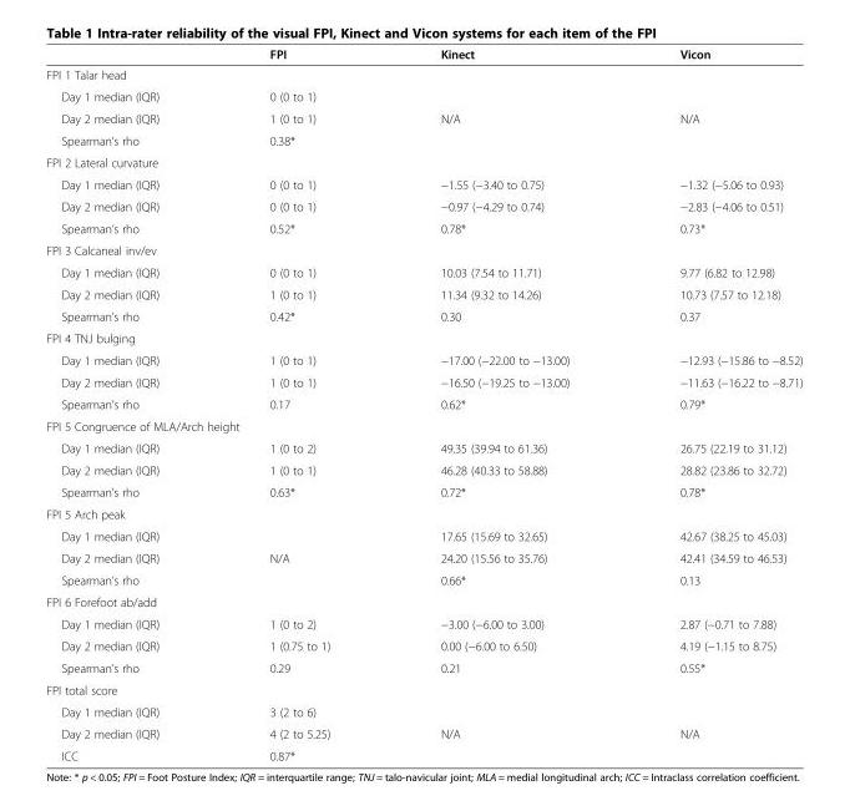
<table><thead><tr><td></td><td>FPI</td><td>Kinect</td><td>Vicon</td></tr></thead><tbody><tr><td colspan="4">FPI 1 Talar head</td></tr><tr><td>Day 1 median (IQR)</td><td>0 (0 to 1)</td><td></td><td></td></tr><tr><td>Day 2 median (IQR)</td><td>1 (0 to 1)</td><td>N/A</td><td>N/A</td></tr><tr><td>Spearman’s rho</td><td>0.38*</td><td></td><td></td></tr><tr><td colspan="4">FPI 2 Lateral curvature</td></tr><tr><td>Day 1 median (IQR)</td><td>0 (0 to 1)</td><td>−1.55 (−3.40 to 0.75)</td><td>−1.32 (−5.06 to 0.93)</td></tr><tr><td>Day 2 median (IQR)</td><td>0 (0 to 1)</td><td>−0.97 (−4.29 to 0.74)</td><td>−2.83 (−4.06 to 0.51)</td></tr><tr><td>Spearman’s rho</td><td>0.52*</td><td>0.78*</td><td>0.73*</td></tr><tr><td colspan="4">FPI 3 Calcaneal inv/ev</td></tr><tr><td>Day 1 median (IQR)</td><td>0 (0 to 1)</td><td>10.03 (7.54 to 11.71)</td><td>9.77 (6.82 to 12.98)</td></tr><tr><td>Day 2 median (IQR)</td><td>1 (0 to 1)</td><td>11.34 (9.32 to 14.26)</td><td>10.73 (7.57 to 12.18)</td></tr><tr><td>Spearman’s rho</td><td>0.42*</td><td>0.30</td><td>0.37</td></tr><tr><td colspan="4">FPI 4 TNJ bulging</td></tr><tr><td>Day 1 median (IQR)</td><td>1 (0 to 1)</td><td>−17.00 (−22.00 to −13.00)</td><td>−12.93 (−15.86 to −8.52)</td></tr><tr><td>Day 2 median (IQR)</td><td>1 (0 to 1)</td><td>−16.50 (−19.25 to −13.00)</td><td>−11.63 (−16.22 to −8.71)</td></tr><tr><td>Spearman’s rho</td><td>0.17</td><td>0.62*</td><td>0.79*</td></tr><tr><td colspan="4">FPI 5 Congruence of MLA/Arch height</td></tr><tr><td>Day 1 median (IQR)</td><td>1 (0 to 2)</td><td>49.35 (39.94 to 61.36)</td><td>26.75 (22.19 to 31.12)</td></tr><tr><td>Day 2 median (IQR)</td><td>1 (0 to 1)</td><td>46.28 (40.33 to 58.88)</td><td>28.82 (23.86 to 32.72)</td></tr><tr><td>Spearman’s rho</td><td>0.63*</td><td>0.72*</td><td>0.78*</td></tr><tr><td colspan="4">FPI 5 Arch peak</td></tr><tr><td>Day 1 median (IQR)</td><td></td><td>17.65 (15.69 to 32.65)</td><td>42.67 (38.25 to 45.03)</td></tr><tr><td>Day 2 median (IQR)</td><td>N/A</td><td>24.20 (15.56 to 35.76)</td><td>42.41 (34.59 to 46.53)</td></tr><tr><td>Spearman’s rho</td><td></td><td>0.66*</td><td>0.13</td></tr><tr><td colspan="4">FPI 6 Forefoot ab/add</td></tr><tr><td>Day 1 median (IQR)</td><td>1 (0 to 2)</td><td>−3.00 (−6.00 to 3.00)</td><td>2.87 (−0.71 to 7.88)</td></tr><tr><td>Day 2 median (IQR)</td><td>1 (0.75 to 1)</td><td>0.00 (−6.00 to 6.50)</td><td>4.19 (−1.15 to 8.75)</td></tr><tr><td>Spearman’s rho</td><td>0.29</td><td>0.21</td><td>0.55*</td></tr><tr><td colspan="4">FPI total score</td></tr><tr><td>Day 1 median (IQR)</td><td>3 (2 to 6)</td><td></td><td></td></tr><tr><td>Day 2 median (IQR)</td><td>4 (2 to 5.25)</td><td>N/A</td><td>N/A</td></tr><tr><td>ICC</td><td>0.87*</td><td></td><td></td></tr></tbody></table>